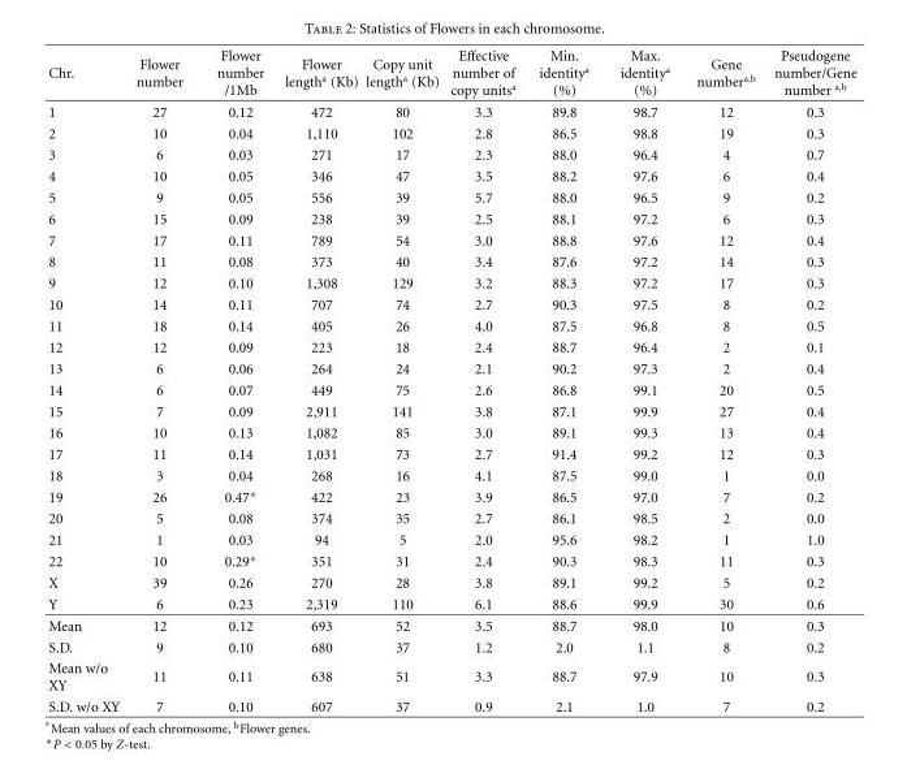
<table><thead><tr><td>Chr.</td><td>Flower number</td><td>Flower number /1Mb</td><td>Flower length<sup>a</sup> (Kb)</td><td>Copy unit length<sup>a</sup> (Kb)</td><td>Effective number of copy units<sup>a</sup></td><td>Min. identity<sup>a</sup> (%)</td><td>Max. identity<sup>a</sup> (%)</td><td>Gene number<sup>a,b</sup></td><td>Pseudogene number/Gene number <sup>a,b</sup></td></tr></thead><tbody><tr><td>1</td><td>27</td><td>0.12</td><td>472</td><td>80</td><td>3.3</td><td>89.8</td><td>98.7</td><td>12</td><td>0.3</td></tr><tr><td>2</td><td>10</td><td>0.04</td><td>1,110</td><td>102</td><td>2.8</td><td>86.5</td><td>98.8</td><td>19</td><td>0.3</td></tr><tr><td>3</td><td>6</td><td>0.03</td><td>271</td><td>17</td><td>2.3</td><td>88.0</td><td>96.4</td><td>4</td><td>0.7</td></tr><tr><td>4</td><td>10</td><td>0.05</td><td>346</td><td>47</td><td>3.5</td><td>88.2</td><td>97.6</td><td>6</td><td>0.4</td></tr><tr><td>5</td><td>9</td><td>0.05</td><td>556</td><td>39</td><td>5.7</td><td>88.0</td><td>96.5</td><td>9</td><td>0.2</td></tr><tr><td>6</td><td>15</td><td>0.09</td><td>238</td><td>39</td><td>2.5</td><td>88.1</td><td>97.2</td><td>6</td><td>0.3</td></tr><tr><td>7</td><td>17</td><td>0.11</td><td>789</td><td>54</td><td>3.0</td><td>88.8</td><td>97.6</td><td>12</td><td>0.4</td></tr><tr><td>8</td><td>11</td><td>0.08</td><td>373</td><td>40</td><td>3.4</td><td>87.6</td><td>97.2</td><td>14</td><td>0.3</td></tr><tr><td>9</td><td>12</td><td>0.10</td><td>1,308</td><td>129</td><td>3.2</td><td>88.3</td><td>97.2</td><td>17</td><td>0.3</td></tr><tr><td>10</td><td>14</td><td>0.11</td><td>707</td><td>74</td><td>2.7</td><td>90.3</td><td>97.5</td><td>8</td><td>0.2</td></tr><tr><td>11</td><td>18</td><td>0.14</td><td>405</td><td>26</td><td>4.0</td><td>87.5</td><td>96.8</td><td>8</td><td>0.5</td></tr><tr><td>12</td><td>12</td><td>0.09</td><td>223</td><td>18</td><td>2.4</td><td>88.7</td><td>96.4</td><td>2</td><td>0.1</td></tr><tr><td>13</td><td>6</td><td>0.06</td><td>264</td><td>24</td><td>2.1</td><td>90.2</td><td>97.3</td><td>2</td><td>0.4</td></tr><tr><td>14</td><td>6</td><td>0.07</td><td>449</td><td>75</td><td>2.6</td><td>86.8</td><td>99.1</td><td>20</td><td>0.5</td></tr><tr><td>15</td><td>7</td><td>0.09</td><td>2,911</td><td>141</td><td>3.8</td><td>87.1</td><td>99.9</td><td>27</td><td>0.4</td></tr><tr><td>16</td><td>10</td><td>0.13</td><td>1,082</td><td>85</td><td>3.0</td><td>89.1</td><td>99.3</td><td>13</td><td>0.4</td></tr><tr><td>17</td><td>11</td><td>0.14</td><td>1,031</td><td>73</td><td>2.7</td><td>91.4</td><td>99.2</td><td>12</td><td>0.3</td></tr><tr><td>18</td><td>3</td><td>0.04</td><td>268</td><td>16</td><td>4.1</td><td>87.5</td><td>99.0</td><td>1</td><td>0.0</td></tr><tr><td>19</td><td>26</td><td>0.47∗</td><td>422</td><td>23</td><td>3.9</td><td>86.5</td><td>97.0</td><td>7</td><td>0.2</td></tr><tr><td>20</td><td>5</td><td>0.08</td><td>374</td><td>35</td><td>2.7</td><td>86.1</td><td>98.5</td><td>2</td><td>0.0</td></tr><tr><td>21</td><td>1</td><td>0.03</td><td>94</td><td>5</td><td>2.0</td><td>95.6</td><td>98.2</td><td>1</td><td>1.0</td></tr><tr><td>22</td><td>10</td><td>0.29∗</td><td>351</td><td>31</td><td>2.4</td><td>90.3</td><td>98.3</td><td>11</td><td>0.3</td></tr><tr><td>X</td><td>39</td><td>0.26</td><td>270</td><td>28</td><td>3.8</td><td>89.1</td><td>99.2</td><td>5</td><td>0.2</td></tr><tr><td>Y</td><td>6</td><td>0.23</td><td>2,319</td><td>110</td><td>6.1</td><td>88.6</td><td>99.9</td><td>30</td><td>0.6</td></tr><tr><td>Mean</td><td>12</td><td>0.12</td><td>693</td><td>52</td><td>3.5</td><td>88.7</td><td>98.0</td><td>10</td><td>0.3</td></tr><tr><td>S.D.</td><td>9</td><td>0.10</td><td>680</td><td>37</td><td>1.2</td><td>2.0</td><td>1.1</td><td>8</td><td>0.2</td></tr><tr><td>Mean w/o XY</td><td>11</td><td>0.11</td><td>638</td><td>51</td><td>3.3</td><td>88.7</td><td>97.9</td><td>10</td><td>0.3</td></tr><tr><td>S.D. w/o XY</td><td>7</td><td>0.10</td><td>607</td><td>37</td><td>0.9</td><td>2.1</td><td>1.0</td><td>7</td><td>0.2</td></tr></tbody></table>